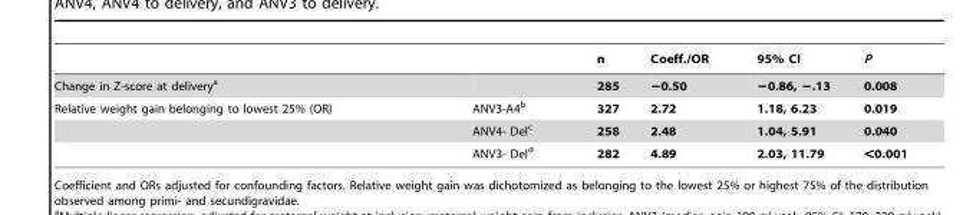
<table><thead><tr><td></td><td></td><td>n</td><td>Coeff./OR</td><td>95% CI</td><td>P</td></tr></thead><tbody><tr><td>Change in Z-score at delivery<sup>a</sup></td><td></td><td>285</td><td>−0.50</td><td>−0.86, −.13</td><td>0.008</td></tr><tr><td rowspan="3">Relative weight gain belonging to lowest 25% (OR)</td><td>ANV3-A4<sup>b</sup></td><td>327</td><td>2.72</td><td>1.18, 6.23</td><td>0.019</td></tr><tr><td>ANV4- Del<sup>c</sup></td><td>258</td><td>2.48</td><td>1.04, 5.91</td><td>0.040</td></tr><tr><td>ANV3- Del<sup>d</sup></td><td>282</td><td>4.89</td><td>2.03, 11.79</td><td>&lt;0.001</td></tr></tbody></table>